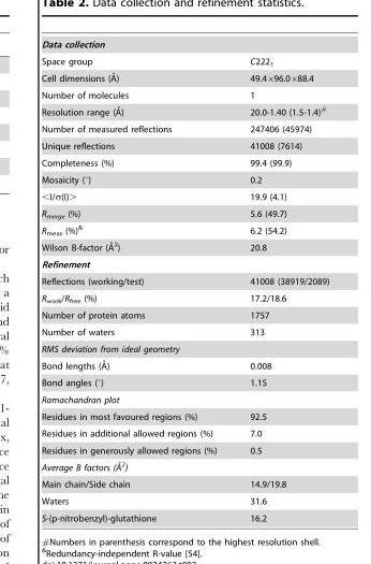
<table><tbody><tr><td colspan="2">Data collection</td></tr><tr><td>Space group</td><td>C222<sub>1</sub></td></tr><tr><td>Cell dimensions (A˚)</td><td>49.4×96.0×88.4</td></tr><tr><td>Number of molecules</td><td>1</td></tr><tr><td>Resolution range (A˚)</td><td>20.0-1.40 (1.5-1.4)#</td></tr><tr><td>Number of measured reflections</td><td>247406 (45974)</td></tr><tr><td>Unique reflections</td><td>41008 (7614)</td></tr><tr><td>Completeness (%)</td><td>99.4 (99.9)</td></tr><tr><td>Mosaicity (°)</td><td>0.2</td></tr><tr><td>&lt;I/σ(I)&gt;</td><td>19.9 (4.1)</td></tr><tr><td>R<sub>merge</sub> (%)</td><td>5.6 (49.7)</td></tr><tr><td>R<sub>meas</sub> (%)&amp;</td><td>6.2 (54.2)</td></tr><tr><td>Wilson B-factor (A˚2)</td><td>20.8</td></tr><tr><td colspan="2">Refinement</td></tr><tr><td>Reflections (working/test)</td><td>41008 (38919/2089)</td></tr><tr><td>R<sub>work</sub>/R<sub>free</sub> (%)</td><td>17.2/18.6</td></tr><tr><td>Number of protein atoms</td><td>1757</td></tr><tr><td>Number of waters</td><td>313</td></tr><tr><td colspan="2">RMS deviation from ideal geometry</td></tr><tr><td>Bond lengths (A˚)</td><td>0.008</td></tr><tr><td>Bond angles (°)</td><td>1.15</td></tr><tr><td colspan="2">Ramachandran plot</td></tr><tr><td>Residues in most favoured regions (%)</td><td>92.5</td></tr><tr><td>Residues in additional allowed regions (%)</td><td>7.0</td></tr><tr><td>Residues in generously allowed regions (%)</td><td>0.5</td></tr><tr><td colspan="2">Average B factors (A˚2)</td></tr><tr><td>Main chain/Side chain</td><td>14.9/19.8</td></tr><tr><td>Waters</td><td>31.6</td></tr><tr><td>S-(p-nitrobenzyl)-glutathione</td><td>16.2</td></tr></tbody></table>